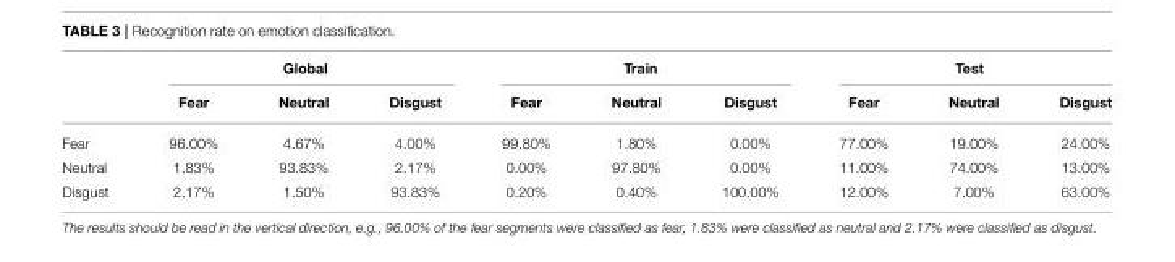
<table><thead><tr><td rowspan="2"></td><td colspan="3">Global</td><td colspan="3">Train</td><td colspan="3">Test</td></tr><tr><td>Fear</td><td>Neutral</td><td>Disgust</td><td>Fear</td><td>Neutral</td><td>Disgust</td><td>Fear</td><td>Neutral</td><td>Disgust</td></tr></thead><tbody><tr><td>Fear</td><td>96.00%</td><td>4.67%</td><td>4.00%</td><td>99.80%</td><td>1.80%</td><td>0.00%</td><td>77.00%</td><td>19.00%</td><td>24.00%</td></tr><tr><td>Neutral</td><td>1.83%</td><td>93.83%</td><td>2.17%</td><td>0.00%</td><td>97.80%</td><td>0.00%</td><td>11.00%</td><td>74.00%</td><td>13.00%</td></tr><tr><td>Disgust</td><td>2.17%</td><td>1.50%</td><td>93.83%</td><td>0.20%</td><td>0.40%</td><td>100.00%</td><td>12.00%</td><td>7.00%</td><td>63.00%</td></tr></tbody></table>